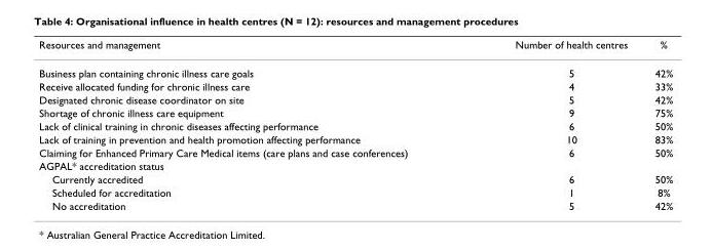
<table><thead><tr><td>Resources and management</td><td>Number of health centres</td><td>%</td></tr></thead><tbody><tr><td>Business plan containing chronic illness care goals</td><td>5</td><td>42%</td></tr><tr><td>Receive allocated funding for chronic illness care</td><td>4</td><td>33%</td></tr><tr><td>Designated chronic disease coordinator on site</td><td>5</td><td>42%</td></tr><tr><td>Shortage of chronic illness care equipment</td><td>9</td><td>75%</td></tr><tr><td>Lack of clinical training in chronic diseases affecting performance</td><td>6</td><td>50%</td></tr><tr><td>Lack of training in prevention and health promotion affecting performance</td><td>10</td><td>83%</td></tr><tr><td>Claiming for Enhanced Primary Care Medical items (care plans and case conferences)</td><td>6</td><td>50%</td></tr><tr><td colspan="3">AGPAL* accreditation status</td></tr><tr><td>Currently accredited</td><td>6</td><td>50%</td></tr><tr><td>Scheduled for accreditation</td><td>1</td><td>8%</td></tr><tr><td>No accreditation</td><td>5</td><td>42%</td></tr></tbody></table>